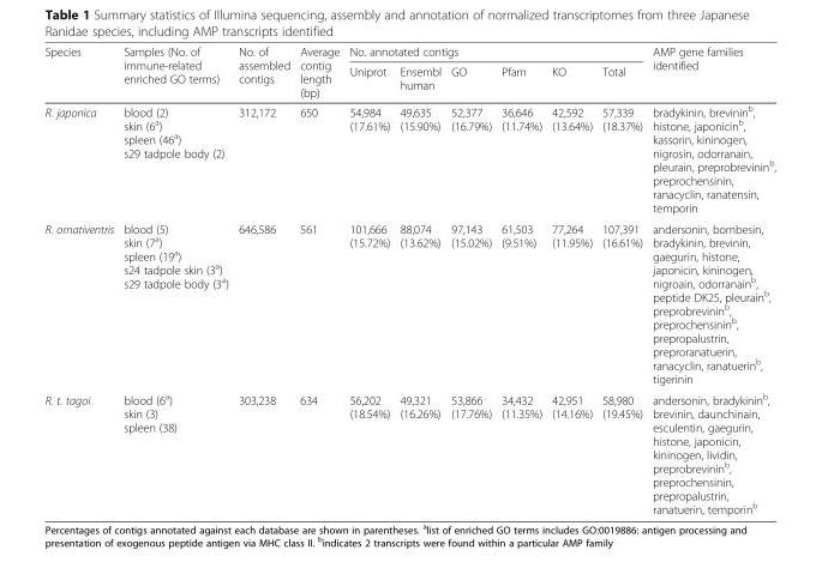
<table><thead><tr><td rowspan="2">Species</td><td rowspan="2">Samples (No. of immune-related enriched GO terms)</td><td rowspan="2">No. of assembled contigs</td><td rowspan="2">Average contig length (bp)</td><td colspan="6">No. annotated contigs</td><td rowspan="2">AMP gene families identified</td></tr><tr><td>Uniprot</td><td>Ensembl human</td><td>GO</td><td>Pfam</td><td>KO</td><td>Total</td></tr></thead><tbody><tr><td>R. japonica</td><td>blood (2) skin (6<sup>a</sup>) spleen (46<sup>a</sup>) s29 tadpole body (2)</td><td>312,172</td><td>650</td><td>54,984 (17.61%)</td><td>49,635 (15.90%)</td><td>52,377 (16.79%)</td><td>36,646 (11.74%)</td><td>42,592 (13.64%)</td><td>57,339 (18.37%)</td><td>bradykinin, brevinin<sup>b</sup>, histone, japonicin<sup>b</sup>, kassorin, kininogen, nigrosin, odorranain, pleurain, preprobrevinin<sup>b</sup>, preprochensinin, ranacyclin, ranatensin, temporin</td></tr><tr><td>R. ornativentris</td><td>blood (5) skin (7<sup>a</sup>) spleen (19<sup>a</sup>) s24 tadpole skin (3<sup>a</sup>) s29 tadpole body (3<sup>a</sup>)</td><td>646,586</td><td>561</td><td>101,666 (15.72%)</td><td>88,074 (13.62%)</td><td>97,143 (15.02%)</td><td>61,503 (9.51%)</td><td>77,264 (11.95%)</td><td>107,391 (16.61%)</td><td>andersonin, bombesin, bradykinin, brevinin, gaegurin, histone, japonicin, kininogen, nigroain, odorranain<sup>b</sup>, peptide DK25, pleurain<sup>b</sup>, preprobrevinin<sup>b</sup>, preprochensinin<sup>b</sup>, prepropalustrin, preproranatuerin, ranacyclin, ranatuerin<sup>b</sup>, tigerinin</td></tr><tr><td>R. t. tagoi</td><td>blood (6<sup>a</sup>) skin (3) spleen (38)</td><td>303,238</td><td>634</td><td>56,202 (18.54%)</td><td>49,321 (16.26%)</td><td>53,866 (17.76%)</td><td>34,432 (11.35%)</td><td>42,951 (14.16%)</td><td>58,980 (19.45%)</td><td>andersonin, bradykinin<sup>b</sup>, brevinin, daunchinain, esculentin, gaegurin, histone, japonicin, kininogen, lividin, preprobrevinin<sup>b</sup>, preprochensinin, prepropalustrin, ranatuerin, temporin<sup>b</sup></td></tr></tbody></table>